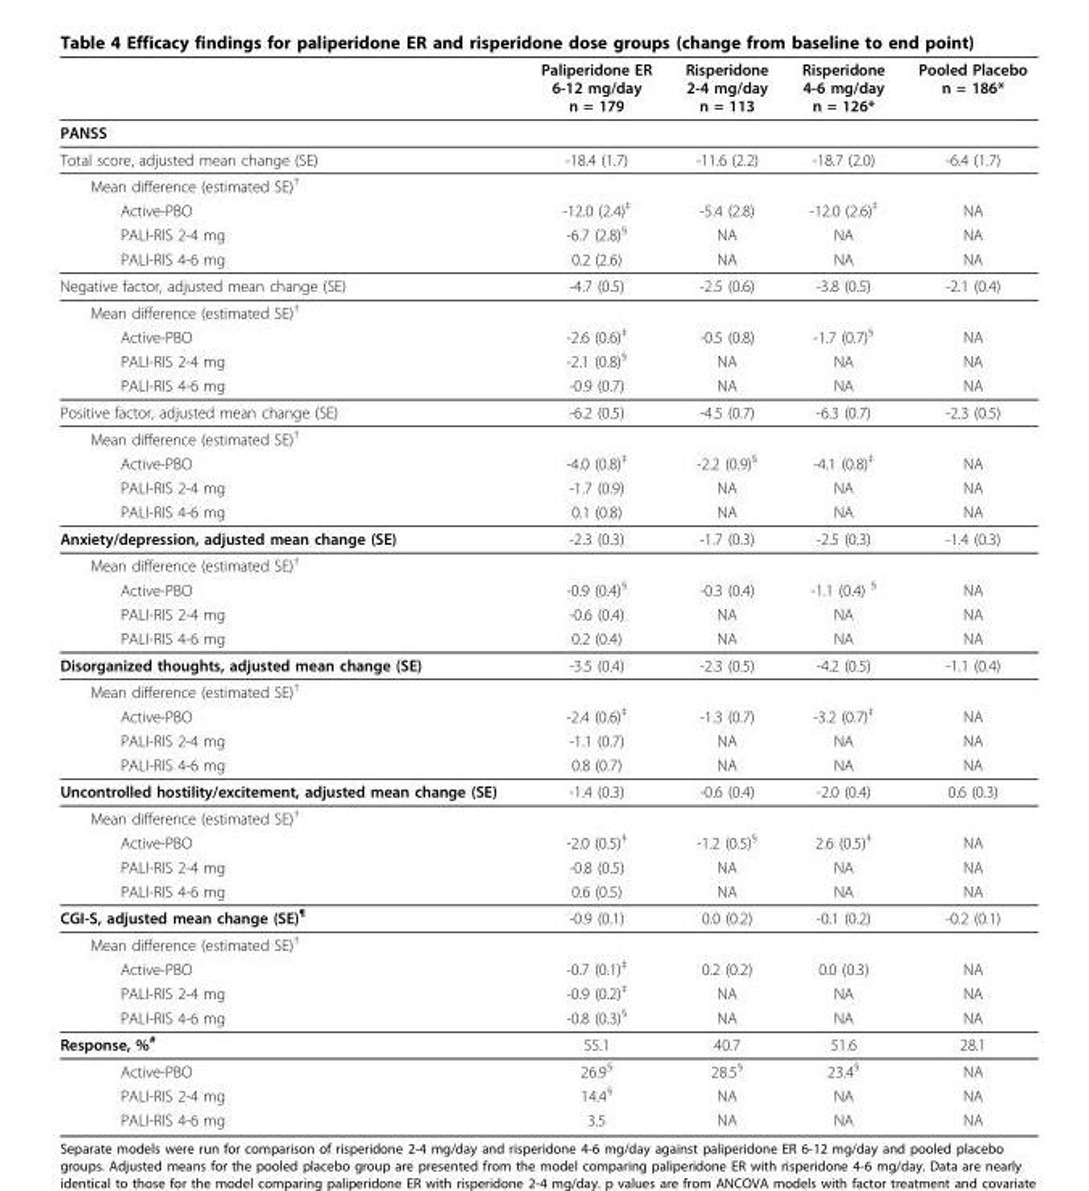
<table><thead><tr><td></td><td>Paliperidone ER 6-12 mg/day n = 179</td><td>Risperidone 2-4 mg/day n = 113</td><td>Risperidone 4-6 mg/day n = 126*</td><td>Pooled Placebo n = 186*</td></tr></thead><tbody><tr><td colspan="5">PANSS</td></tr><tr><td>Total score, adjusted mean change (SE)</td><td>-18.4 (1.7)</td><td>-11.6 (2.2)</td><td>-18.7 (2.0)</td><td>-6.4 (1.7)</td></tr><tr><td colspan="5">Mean difference (estimated SE)<sup>†</sup></td></tr><tr><td>Active-PBO</td><td>-12.0 (2.4)<sup>‡</sup></td><td>-5.4 (2.8)</td><td>-12.0 (2.6)<sup>‡</sup></td><td>NA</td></tr><tr><td>PALI-RIS 2-4 mg</td><td>-6.7 (2.8)<sup>§</sup></td><td>NA</td><td>NA</td><td>NA</td></tr><tr><td>PALI-RIS 4-6 mg</td><td>0.2 (2.6)</td><td>NA</td><td>NA</td><td>NA</td></tr><tr><td>Negative factor, adjusted mean change (SE)</td><td>-4.7 (0.5)</td><td>-2.5 (0.6)</td><td>-3.8 (0.5)</td><td>-2.1 (0.4)</td></tr><tr><td colspan="5">Mean difference (estimated SE)<sup>†</sup></td></tr><tr><td>Active-PBO</td><td>-2.6 (0.6)<sup>‡</sup></td><td>-0.5 (0.8)</td><td>-1.7 (0.7)<sup>§</sup></td><td>NA</td></tr><tr><td>PALI-RIS 2-4 mg</td><td>-2.1 (0.8)<sup>§</sup></td><td>NA</td><td>NA</td><td>NA</td></tr><tr><td>PALI-RIS 4-6 mg</td><td>-0.9 (0.7)</td><td>NA</td><td>NA</td><td>NA</td></tr><tr><td>Positive factor, adjusted mean change (SE)</td><td>-6.2 (0.5)</td><td>-4.5 (0.7)</td><td>-6.3 (0.7)</td><td>-2.3 (0.5)</td></tr><tr><td colspan="5">Mean difference (estimated SE)<sup>†</sup></td></tr><tr><td>Active-PBO</td><td>-4.0 (0.8)<sup>‡</sup></td><td>-2.2 (0.9)<sup>§</sup></td><td>-4.1 (0.8)<sup>‡</sup></td><td>NA</td></tr><tr><td>PALI-RIS 2-4 mg</td><td>-1.7 (0.9)</td><td>NA</td><td>NA</td><td>NA</td></tr><tr><td>PALI-RIS 4-6 mg</td><td>0.1 (0.8)</td><td>NA</td><td>NA</td><td>NA</td></tr><tr><td>Anxiety/depression, adjusted mean change (SE)</td><td>-2.3 (0.3)</td><td>-1.7 (0.3)</td><td>-2.5 (0.3)</td><td>-1.4 (0.3)</td></tr><tr><td colspan="5">Mean difference (estimated SE)<sup>†</sup></td></tr><tr><td>Active-PBO</td><td>-0.9 (0.4)<sup>§</sup></td><td>-0.3 (0.4)</td><td>-1.1 (0.4) <sup>§</sup></td><td>NA</td></tr><tr><td>PALI-RIS 2-4 mg</td><td>-0.6 (0.4)</td><td>NA</td><td>NA</td><td>NA</td></tr><tr><td>PALI-RIS 4-6 mg</td><td>0.2 (0.4)</td><td>NA</td><td>NA</td><td>NA</td></tr><tr><td>Disorganized thoughts, adjusted mean change (SE)</td><td>-3.5 (0.4)</td><td>-2.3 (0.5)</td><td>-4.2 (0.5)</td><td>-1.1 (0.4)</td></tr><tr><td colspan="5">Mean difference (estimated SE)<sup>†</sup></td></tr><tr><td>Active-PBO</td><td>-2.4 (0.6)<sup>‡</sup></td><td>-1.3 (0.7)</td><td>-3.2 (0.7)<sup>‡</sup></td><td>NA</td></tr><tr><td>PALI-RIS 2-4 mg</td><td>-1.1 (0.7)</td><td>NA</td><td>NA</td><td>NA</td></tr><tr><td>PALI-RIS 4-6 mg</td><td>0.8 (0.7)</td><td>NA</td><td>NA</td><td>NA</td></tr><tr><td>Uncontrolled hostility/excitement, adjusted mean change (SE)</td><td>-1.4 (0.3)</td><td>-0.6 (0.4)</td><td>-2.0 (0.4)</td><td>0.6 (0.3)</td></tr><tr><td colspan="5">Mean difference (estimated SE)<sup>†</sup></td></tr><tr><td>Active-PBO</td><td>-2.0 (0.5)<sup>‡</sup></td><td>-1.2 (0.5)<sup>§</sup></td><td>2.6 (0.5)<sup>‡</sup></td><td>NA</td></tr><tr><td>PALI-RIS 2-4 mg</td><td>-0.8 (0.5)</td><td>NA</td><td>NA</td><td>NA</td></tr><tr><td>PALI-RIS 4-6 mg</td><td>0.6 (0.5)</td><td>NA</td><td>NA</td><td>NA</td></tr><tr><td>CGI-S, adjusted mean change (SE)<sup>¶</sup></td><td>-0.9 (0.1)</td><td>0.0 (0.2)</td><td>-0.1 (0.2)</td><td>-0.2 (0.1)</td></tr><tr><td colspan="5">Mean difference (estimated SE)<sup>†</sup></td></tr><tr><td>Active-PBO</td><td>-0.7 (0.1)<sup>‡</sup></td><td>0.2 (0.2)</td><td>0.0 (0.3)</td><td>NA</td></tr><tr><td>PALI-RIS 2-4 mg</td><td>-0.9 (0.2)<sup>‡</sup></td><td>NA</td><td>NA</td><td>NA</td></tr><tr><td>PALI-RIS 4-6 mg</td><td>-0.8 (0.3)<sup>§</sup></td><td>NA</td><td>NA</td><td>NA</td></tr><tr><td>Response, %<sup>#</sup></td><td>55.1</td><td>40.7</td><td>51.6</td><td>28.1</td></tr><tr><td>Active-PBO</td><td>26.9<sup>§</sup></td><td>28.5<sup>§</sup></td><td>23.4<sup>§</sup></td><td>NA</td></tr><tr><td>PALI-RIS 2-4 mg</td><td>14.4<sup>§</sup></td><td>NA</td><td>NA</td><td>NA</td></tr><tr><td>PALI-RIS 4-6 mg</td><td>3.5</td><td>NA</td><td>NA</td><td>NA</td></tr></tbody></table>